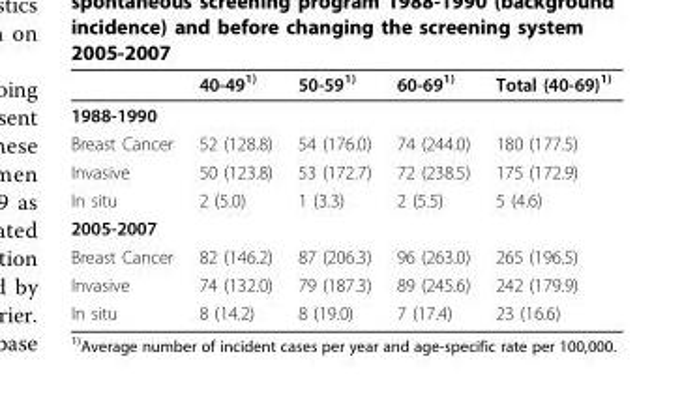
<table><thead><tr><td></td><td>40-49<sup>1)</sup></td><td>50-59<sup>1)</sup></td><td>60-69<sup>1)</sup></td><td>Total (40-69)<sup>1)</sup></td></tr></thead><tbody><tr><td colspan="5">1988-1990</td></tr><tr><td>Breast Cancer</td><td>52 (128.8)</td><td>54 (176.0)</td><td>74 (244.0)</td><td>180 (177.5)</td></tr><tr><td>Invasive</td><td>50 (123.8)</td><td>53 (172.7)</td><td>72 (238.5)</td><td>175 (172.9)</td></tr><tr><td>In situ</td><td>2 (5.0)</td><td>1 (3.3)</td><td>2 (5.5)</td><td>5 (4.6)</td></tr><tr><td colspan="5">2005-2007</td></tr><tr><td>Breast Cancer</td><td>82 (146.2)</td><td>87 (206.3)</td><td>96 (263.0)</td><td>265 (196.5)</td></tr><tr><td>Invasive</td><td>74 (132.0)</td><td>79 (187.3)</td><td>89 (245.6)</td><td>242 (179.9)</td></tr><tr><td>In situ</td><td>8 (14.2)</td><td>8 (19.0)</td><td>7 (17.4)</td><td>23 (16.6)</td></tr></tbody></table>